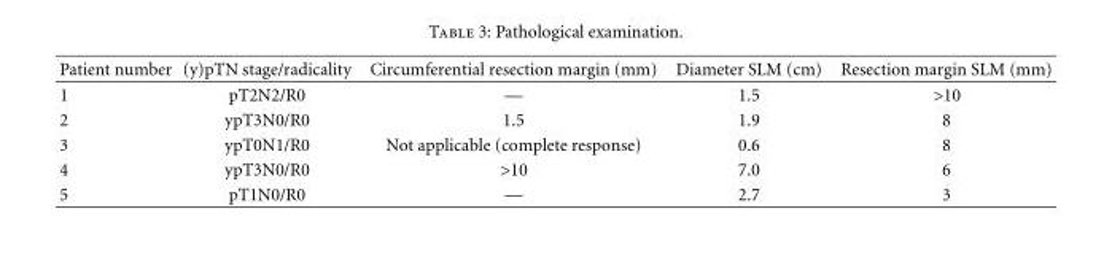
<table><thead><tr><td>Patient number</td><td>(y)pTN stage/radicality</td><td>Circumferential resection margin (mm)</td><td>Diameter SLM (cm)</td><td>Resection margin SLM (mm)</td></tr></thead><tbody><tr><td>1</td><td>pT2N2/R0</td><td>—</td><td>1.5</td><td>&gt;10</td></tr><tr><td>2</td><td>ypT3N0/R0</td><td>1.5</td><td>1.9</td><td>8</td></tr><tr><td>3</td><td>ypT0N1/R0</td><td>Not applicable (complete response)</td><td>0.6</td><td>8</td></tr><tr><td>4</td><td>ypT3N0/R0</td><td>&gt;10</td><td>7.0</td><td>6</td></tr><tr><td>5</td><td>pT1N0/R0</td><td>—</td><td>2.7</td><td>3</td></tr></tbody></table>